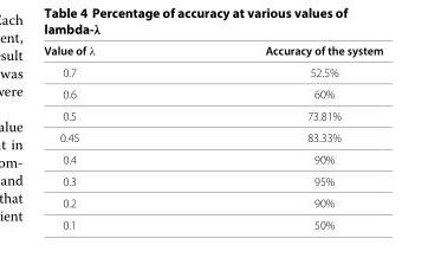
<table><thead><tr><td>Value of λ</td><td>Accuracy of the system</td></tr></thead><tbody><tr><td>0.7</td><td>52.5%</td></tr><tr><td>0.6</td><td>60%</td></tr><tr><td>0.5</td><td>73.81%</td></tr><tr><td>0.45</td><td>83.33%</td></tr><tr><td>0.4</td><td>90%</td></tr><tr><td>0.3</td><td>95%</td></tr><tr><td>0.2</td><td>90%</td></tr><tr><td>0.1</td><td>50%</td></tr></tbody></table>